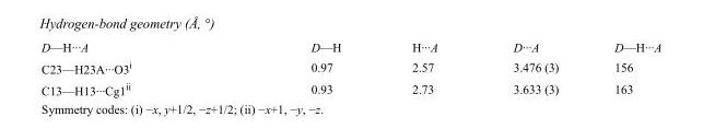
<table><tbody><tr><td>D—H···A</td><td>D—H</td><td>H···A</td><td>D···A</td><td>D—H···A</td></tr><tr><td>C23—H23A···O3<sup>i</sup></td><td>0.97</td><td>2.57</td><td>3.476 (3)</td><td>156</td></tr><tr><td>C13—H13···Cg1<sup>ii</sup></td><td>0.93</td><td>2.73</td><td>3.633 (3)</td><td>163</td></tr></tbody></table>